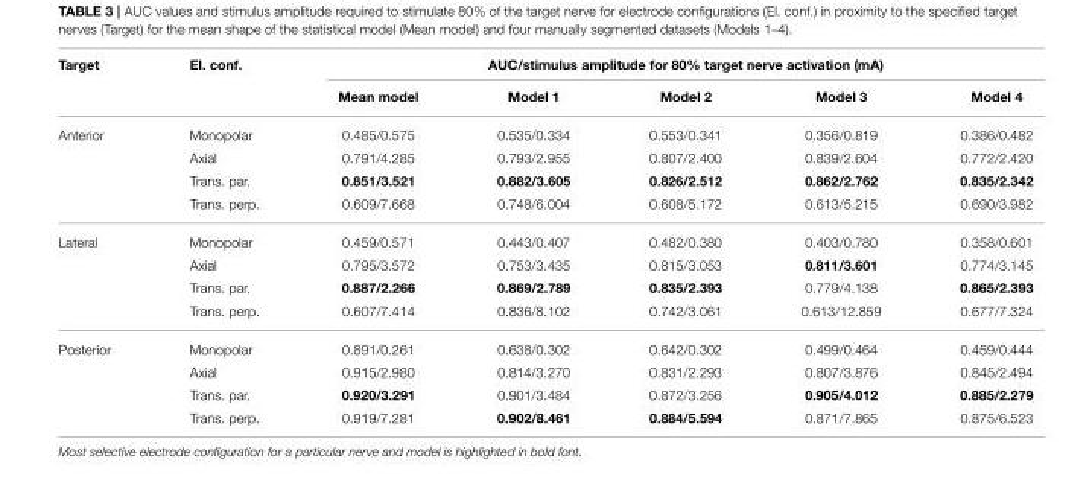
<table><thead><tr><td rowspan="2">Target</td><td rowspan="2">El. conf.</td><td colspan="5">AUC/stimulus amplitude for 80% target nerve activation (mA)</td></tr><tr><td>Mean model</td><td>Model 1</td><td>Model 2</td><td>Model 3</td><td>Model 4</td></tr></thead><tbody><tr><td rowspan="4">Anterior</td><td>Monopolar</td><td>0.485/0.575</td><td>0.535/0.334</td><td>0.553/0.341</td><td>0.356/0.819</td><td>0.386/0.482</td></tr><tr><td>Axial</td><td>0.791/4.285</td><td>0.793/2.955</td><td>0.807/2.400</td><td>0.839/2.604</td><td>0.772/2.420</td></tr><tr><td>Trans. par.</td><td>0.851/3.521</td><td>0.882/3.605</td><td>0.826/2.512</td><td>0.862/2.762</td><td>0.835/2.342</td></tr><tr><td>Trans. perp.</td><td>0.609/7.668</td><td>0.748/6.004</td><td>0.608/5.172</td><td>0.613/5.215</td><td>0.690/3.982</td></tr><tr><td rowspan="4">Lateral</td><td>Monopolar</td><td>0.459/0.571</td><td>0.443/0.407</td><td>0.482/0.380</td><td>0.403/0.780</td><td>0.358/0.601</td></tr><tr><td>Axial</td><td>0.795/3.572</td><td>0.753/3.435</td><td>0.815/3.053</td><td>0.811/3.601</td><td>0.774/3.145</td></tr><tr><td>Trans. par.</td><td>0.887/2.266</td><td>0.869/2.789</td><td>0.835/2.393</td><td>0.779/4.138</td><td>0.865/2.393</td></tr><tr><td>Trans. perp.</td><td>0.607/7.414</td><td>0.836/8.102</td><td>0.742/3.061</td><td>0.613/12.859</td><td>0.677/7.324</td></tr><tr><td rowspan="4">Posterior</td><td>Monopolar</td><td>0.891/0.261</td><td>0.638/0.302</td><td>0.642/0.302</td><td>0.499/0.464</td><td>0.459/0.444</td></tr><tr><td>Axial</td><td>0.915/2.980</td><td>0.814/3.270</td><td>0.831/2.293</td><td>0.807/3.876</td><td>0.845/2.494</td></tr><tr><td>Trans. par.</td><td>0.920/3.291</td><td>0.901/3.484</td><td>0.872/3.256</td><td>0.905/4.012</td><td>0.885/2.279</td></tr><tr><td>Trans. perp.</td><td>0.919/7.281</td><td>0.902/8.461</td><td>0.884/5.594</td><td>0.871/7.865</td><td>0.875/6.523</td></tr></tbody></table>